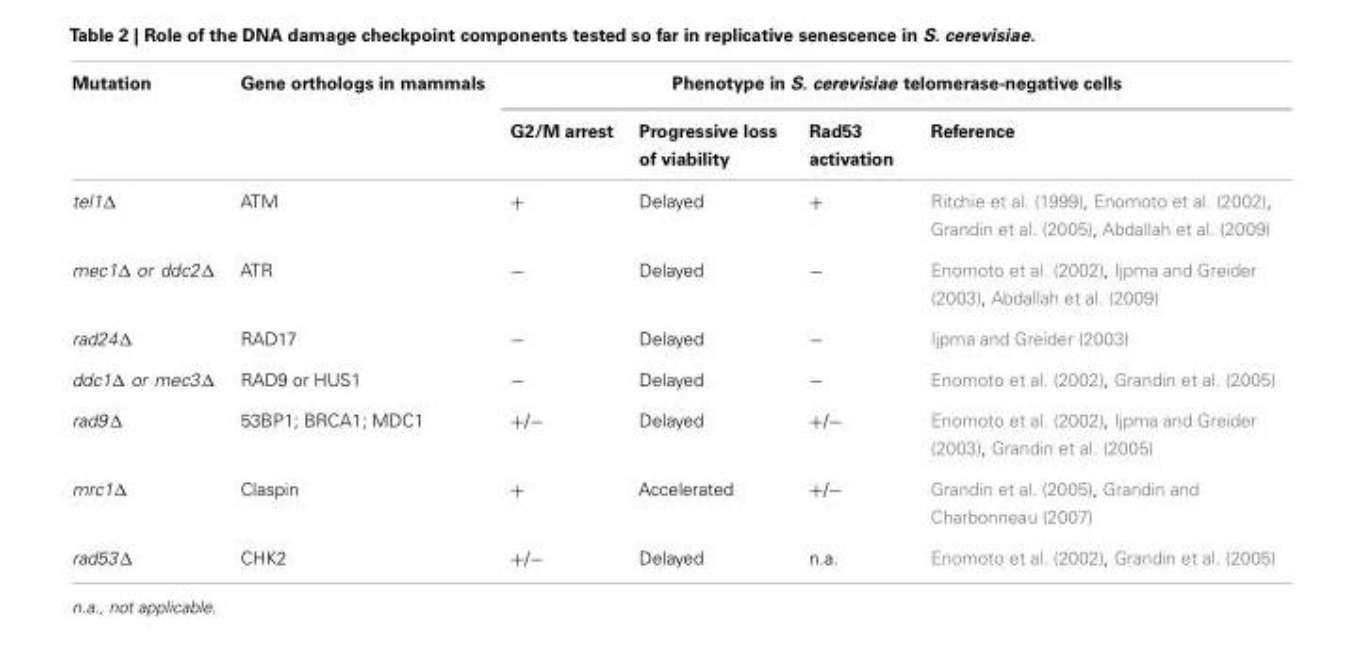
<table><thead><tr><td rowspan="2">Mutation</td><td rowspan="2">Gene orthologs in mammals</td><td colspan="4">Phenotype in S. cerevisiae telomerase-negative cells</td></tr><tr><td>G2/M arrest</td><td>Progressive loss of viability</td><td>Rad53 activation</td><td>Reference</td></tr></thead><tbody><tr><td>tel1∆</td><td>ATM</td><td>+</td><td>Delayed</td><td>+</td><td>Ritchie et al. (1999), Enomoto et al. (2002), Grandin et al. (2005), Abdallah et al. (2009)</td></tr><tr><td>mec1∆ or ddc2∆</td><td>ATR</td><td>−</td><td>Delayed</td><td>−</td><td>Enomoto et al. (2002), Ijpma and Greider (2003), Abdallah et al. (2009)</td></tr><tr><td>rad24∆</td><td>RAD17</td><td>−</td><td>Delayed</td><td>−</td><td>Ijpma and Greider (2003)</td></tr><tr><td>ddc1∆ or mec3∆</td><td>RAD9 or HUS1</td><td>−</td><td>Delayed</td><td>−</td><td>Enomoto et al. (2002), Grandin et al. (2005)</td></tr><tr><td>rad9∆</td><td>53BP1; BRCA1; MDC1</td><td>+/−</td><td>Delayed</td><td>+/−</td><td>Enomoto et al. (2002), Ijpma and Greider (2003), Grandin et al. (2005)</td></tr><tr><td>mrc1∆</td><td>Claspin</td><td>+</td><td>Accelerated</td><td>+/−</td><td>Grandin et al. (2005), Grandin and Charbonneau (2007)</td></tr><tr><td>rad53∆</td><td>CHK2</td><td>+/−</td><td>Delayed</td><td>n.a.</td><td>Enomoto et al. (2002), Grandin et al. (2005)</td></tr></tbody></table>